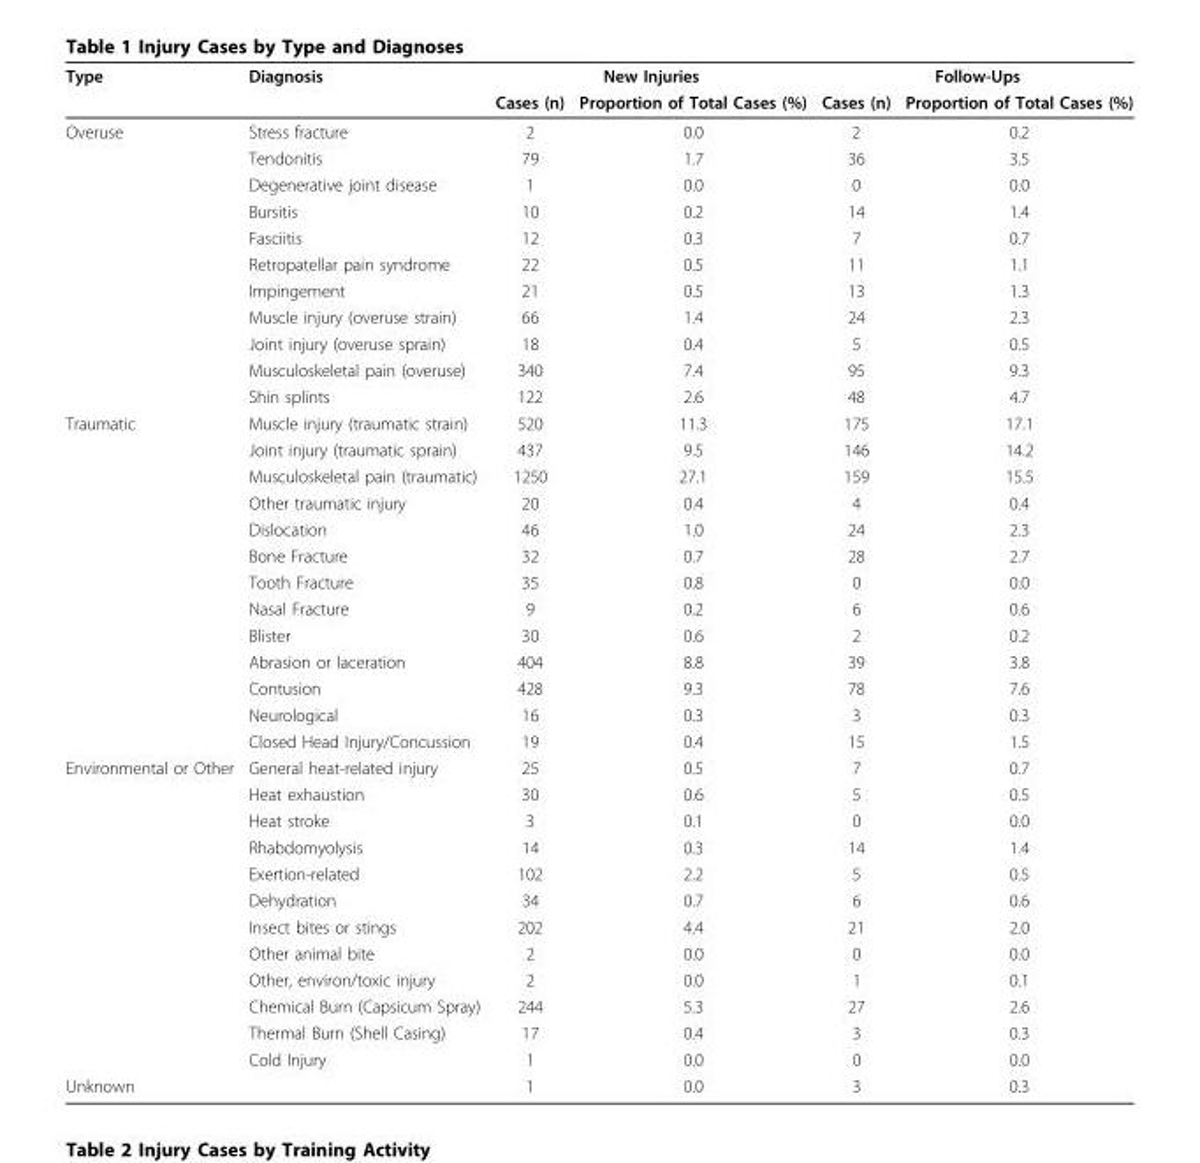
<table><thead><tr><td rowspan="2">Type</td><td rowspan="2">Diagnosis</td><td colspan="2">New Injuries</td><td colspan="2">Follow-Ups</td></tr><tr><td>Cases (n)</td><td>Proportion of Total Cases (%)</td><td>Cases (n)</td><td>Proportion of Total Cases (%)</td></tr></thead><tbody><tr><td rowspan="11">Overuse</td><td>Stress fracture</td><td>2</td><td>0.0</td><td>2</td><td>0.2</td></tr><tr><td>Tendonitis</td><td>79</td><td>1.7</td><td>36</td><td>3.5</td></tr><tr><td>Degenerative joint disease</td><td>1</td><td>0.0</td><td>0</td><td>0.0</td></tr><tr><td>Bursitis</td><td>10</td><td>0.2</td><td>14</td><td>1.4</td></tr><tr><td>Fasciitis</td><td>12</td><td>0.3</td><td>7</td><td>0.7</td></tr><tr><td>Retropatellar pain syndrome</td><td>22</td><td>0.5</td><td>11</td><td>1.1</td></tr><tr><td>Impingement</td><td>21</td><td>0.5</td><td>13</td><td>1.3</td></tr><tr><td>Muscle injury (overuse strain)</td><td>66</td><td>1.4</td><td>24</td><td>2.3</td></tr><tr><td>Joint injury (overuse sprain)</td><td>18</td><td>0.4</td><td>5</td><td>0.5</td></tr><tr><td>Musculoskeletal pain (overuse)</td><td>340</td><td>7.4</td><td>95</td><td>9.3</td></tr><tr><td>Shin splints</td><td>122</td><td>2.6</td><td>48</td><td>4.7</td></tr><tr><td rowspan="13">Traumatic</td><td>Muscle injury (traumatic strain)</td><td>520</td><td>11.3</td><td>175</td><td>17.1</td></tr><tr><td>Joint injury (traumatic sprain)</td><td>437</td><td>9.5</td><td>146</td><td>14.2</td></tr><tr><td>Musculoskeletal pain (traumatic)</td><td>1250</td><td>27.1</td><td>159</td><td>15.5</td></tr><tr><td>Other traumatic injury</td><td>20</td><td>0.4</td><td>4</td><td>0.4</td></tr><tr><td>Dislocation</td><td>46</td><td>1.0</td><td>24</td><td>2.3</td></tr><tr><td>Bone Fracture</td><td>32</td><td>0.7</td><td>28</td><td>2.7</td></tr><tr><td>Tooth Fracture</td><td>35</td><td>0.8</td><td>0</td><td>0.0</td></tr><tr><td>Nasal Fracture</td><td>9</td><td>0.2</td><td>6</td><td>0.6</td></tr><tr><td>Blister</td><td>30</td><td>0.6</td><td>2</td><td>0.2</td></tr><tr><td>Abrasion or laceration</td><td>404</td><td>8.8</td><td>39</td><td>3.8</td></tr><tr><td>Contusion</td><td>428</td><td>9.3</td><td>78</td><td>7.6</td></tr><tr><td>Neurological</td><td>16</td><td>0.3</td><td>3</td><td>0.3</td></tr><tr><td>Closed Head Injury/Concussion</td><td>19</td><td>0.4</td><td>15</td><td>1.5</td></tr><tr><td rowspan="12">Environmental or Other</td><td>General heat-related injury</td><td>25</td><td>0.5</td><td>7</td><td>0.7</td></tr><tr><td>Heat exhaustion</td><td>30</td><td>0.6</td><td>5</td><td>0.5</td></tr><tr><td>Heat stroke</td><td>3</td><td>0.1</td><td>0</td><td>0.0</td></tr><tr><td>Rhabdomyolysis</td><td>14</td><td>0.3</td><td>14</td><td>1.4</td></tr><tr><td>Exertion-related</td><td>102</td><td>2.2</td><td>5</td><td>0.5</td></tr><tr><td>Dehydration</td><td>34</td><td>0.7</td><td>6</td><td>0.6</td></tr><tr><td>Insect bites or stings</td><td>202</td><td>4.4</td><td>21</td><td>2.0</td></tr><tr><td>Other animal bite</td><td>2</td><td>0.0</td><td>0</td><td>0.0</td></tr><tr><td>Other, environ/toxic injury</td><td>2</td><td>0.0</td><td>1</td><td>0.1</td></tr><tr><td>Chemical Burn (Capsicum Spray)</td><td>244</td><td>5.3</td><td>27</td><td>2.6</td></tr><tr><td>Thermal Burn (Shell Casing)</td><td>17</td><td>0.4</td><td>3</td><td>0.3</td></tr><tr><td>Cold Injury</td><td>1</td><td>0.0</td><td>0</td><td>0.0</td></tr><tr><td colspan="2">Unknown</td><td>1</td><td>0.0</td><td>3</td><td>0.3</td></tr></tbody></table>